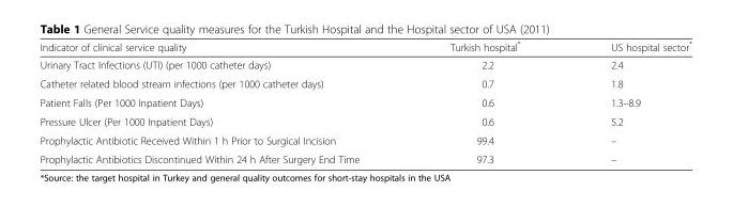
<table><thead><tr><td>Indicator of clinical service quality</td><td>Turkish hospital*</td><td>US hospital sector*</td></tr></thead><tbody><tr><td>Urinary Tract Infections (UTI) (per 1000 catheter days)</td><td>2.2</td><td>2.4</td></tr><tr><td>Catheter related blood stream infections (per 1000 catheter days)</td><td>0.7</td><td>1.8</td></tr><tr><td>Patient Falls (Per 1000 Inpatient Days)</td><td>0.6</td><td>1.3–8.9</td></tr><tr><td>Pressure Ulcer (Per 1000 Inpatient Days)</td><td>0.6</td><td>5.2</td></tr><tr><td>Prophylactic Antibiotic Received Within 1 h Prior to Surgical Incision</td><td>99.4</td><td>–</td></tr><tr><td>Prophylactic Antibiotics Discontinued Within 24 h After Surgery End Time</td><td>97.3</td><td>–</td></tr></tbody></table>